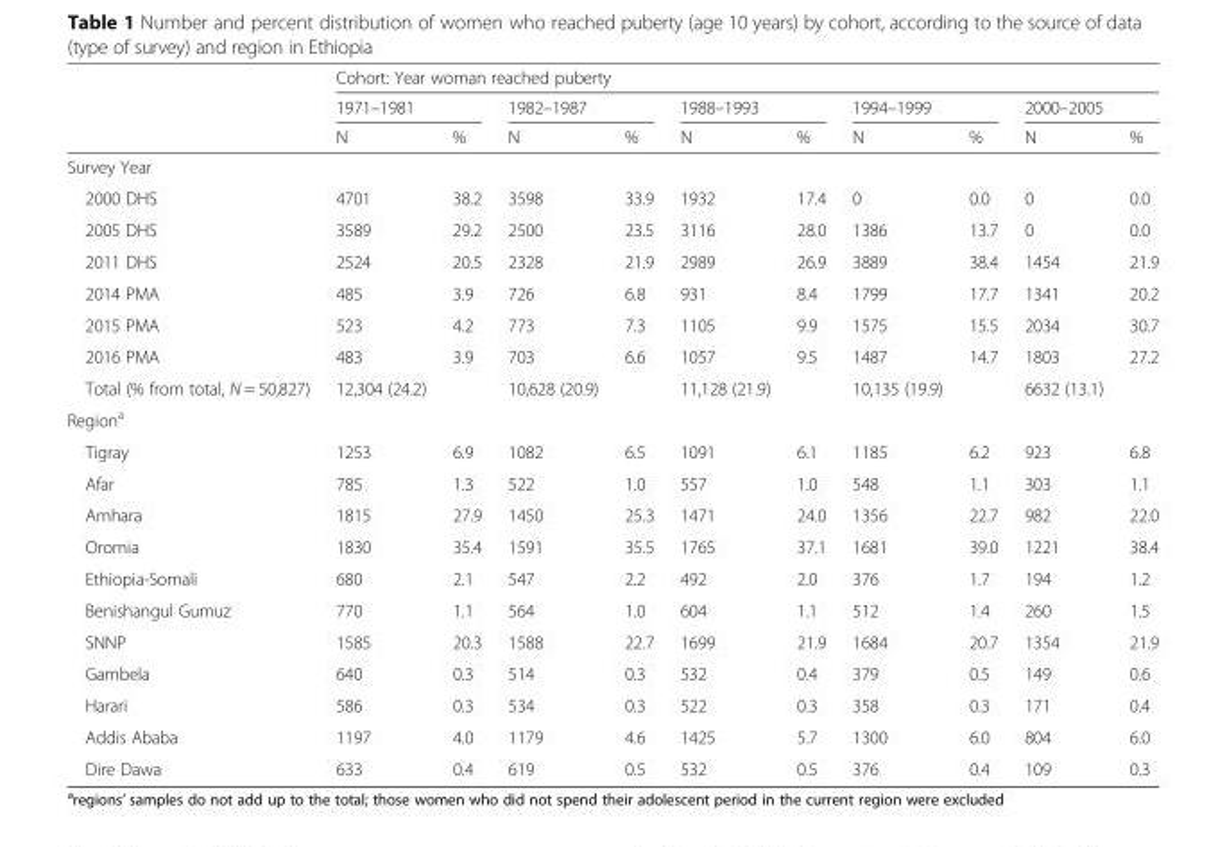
<table><thead><tr><td rowspan="3"></td><td colspan="10">Cohort: Year woman reached puberty</td></tr><tr><td colspan="2">1971–1981</td><td colspan="2">1982–1987</td><td colspan="2">1988–1993</td><td colspan="2">1994–1999</td><td colspan="2">2000–2005</td></tr><tr><td>N</td><td>%</td><td>N</td><td>%</td><td>N</td><td>%</td><td>N</td><td>%</td><td>N</td><td>%</td></tr></thead><tbody><tr><td colspan="11">Survey Year</td></tr><tr><td>2000 DHS</td><td>4701</td><td>38.2</td><td>3598</td><td>33.9</td><td>1932</td><td>17.4</td><td>0</td><td>0.0</td><td>0</td><td>0.0</td></tr><tr><td>2005 DHS</td><td>3589</td><td>29.2</td><td>2500</td><td>23.5</td><td>3116</td><td>28.0</td><td>1386</td><td>13.7</td><td>0</td><td>0.0</td></tr><tr><td>2011 DHS</td><td>2524</td><td>20.5</td><td>2328</td><td>21.9</td><td>2989</td><td>26.9</td><td>3889</td><td>38.4</td><td>1454</td><td>21.9</td></tr><tr><td>2014 PMA</td><td>485</td><td>3.9</td><td>726</td><td>6.8</td><td>931</td><td>8.4</td><td>1799</td><td>17.7</td><td>1341</td><td>20.2</td></tr><tr><td>2015 PMA</td><td>523</td><td>4.2</td><td>773</td><td>7.3</td><td>1105</td><td>9.9</td><td>1575</td><td>15.5</td><td>2034</td><td>30.7</td></tr><tr><td>2016 PMA</td><td>483</td><td>3.9</td><td>703</td><td>6.6</td><td>1057</td><td>9.5</td><td>1487</td><td>14.7</td><td>1803</td><td>27.2</td></tr><tr><td>Total (% from total, N = 50,827)</td><td>12,304 (24.2)</td><td></td><td>10,628 (20.9)</td><td></td><td>11,128 (21.9)</td><td></td><td>10,135 (19.9)</td><td></td><td>6632 (13.1)</td><td></td></tr><tr><td colspan="11">Region<sup>a</sup></td></tr><tr><td>Tigray</td><td>1253</td><td>6.9</td><td>1082</td><td>6.5</td><td>1091</td><td>6.1</td><td>1185</td><td>6.2</td><td>923</td><td>6.8</td></tr><tr><td>Afar</td><td>785</td><td>1.3</td><td>522</td><td>1.0</td><td>557</td><td>1.0</td><td>548</td><td>1.1</td><td>303</td><td>1.1</td></tr><tr><td>Amhara</td><td>1815</td><td>27.9</td><td>1450</td><td>25.3</td><td>1471</td><td>24.0</td><td>1356</td><td>22.7</td><td>982</td><td>22.0</td></tr><tr><td>Oromia</td><td>1830</td><td>35.4</td><td>1591</td><td>35.5</td><td>1765</td><td>37.1</td><td>1681</td><td>39.0</td><td>1221</td><td>38.4</td></tr><tr><td>Ethiopia-Somali</td><td>680</td><td>2.1</td><td>547</td><td>2.2</td><td>492</td><td>2.0</td><td>376</td><td>1.7</td><td>194</td><td>1.2</td></tr><tr><td>Benishangul Gumuz</td><td>770</td><td>1.1</td><td>564</td><td>1.0</td><td>604</td><td>1.1</td><td>512</td><td>1.4</td><td>260</td><td>1.5</td></tr><tr><td>SNNP</td><td>1585</td><td>20.3</td><td>1588</td><td>22.7</td><td>1699</td><td>21.9</td><td>1684</td><td>20.7</td><td>1354</td><td>21.9</td></tr><tr><td>Gambela</td><td>640</td><td>0.3</td><td>514</td><td>0.3</td><td>532</td><td>0.4</td><td>379</td><td>0.5</td><td>149</td><td>0.6</td></tr><tr><td>Harari</td><td>586</td><td>0.3</td><td>534</td><td>0.3</td><td>522</td><td>0.3</td><td>358</td><td>0.3</td><td>171</td><td>0.4</td></tr><tr><td>Addis Ababa</td><td>1197</td><td>4.0</td><td>1179</td><td>4.6</td><td>1425</td><td>5.7</td><td>1300</td><td>6.0</td><td>804</td><td>6.0</td></tr><tr><td>Dire Dawa</td><td>633</td><td>0.4</td><td>619</td><td>0.5</td><td>532</td><td>0.5</td><td>376</td><td>0.4</td><td>109</td><td>0.3</td></tr></tbody></table>